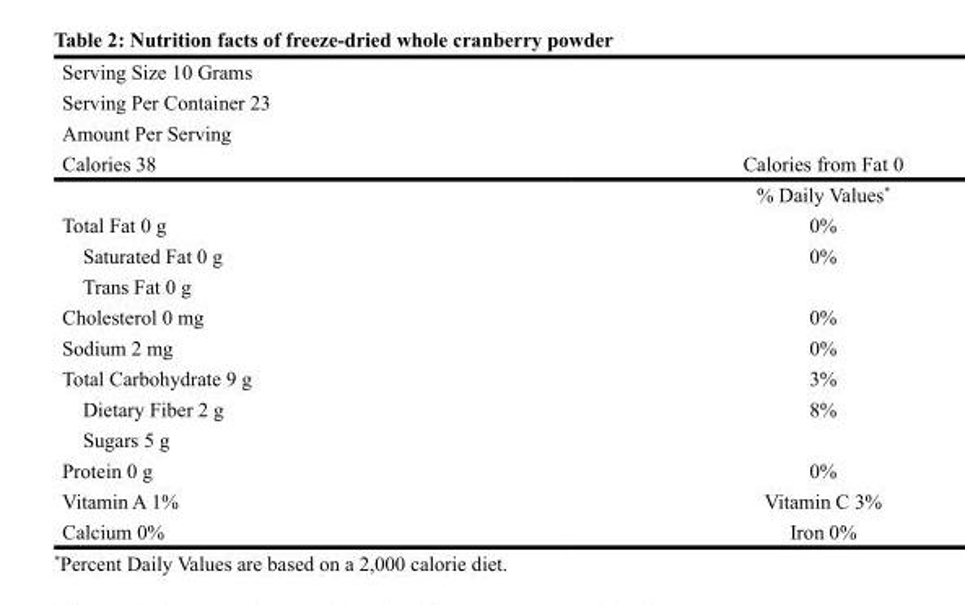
<table><thead><tr><td rowspan="4">Serving Size 10 Grams Serving Per Container 23 Amount Per Serving Calories 38</td><td rowspan="4">Calories from Fat 0</td></tr><tr></tr><tr></tr><tr></tr></thead><tbody><tr><td></td><td>% Daily Values*</td></tr><tr><td>Total Fat 0 g</td><td>0%</td></tr><tr><td>Saturated Fat 0 g</td><td>0%</td></tr><tr><td colspan="2">Trans Fat 0 g</td></tr><tr><td>Cholesterol 0 mg</td><td>0%</td></tr><tr><td>Sodium 2 mg</td><td>0%</td></tr><tr><td>Total Carbohydrate 9 g</td><td>3%</td></tr><tr><td>Dietary Fiber 2 g</td><td>8%</td></tr><tr><td colspan="2">Sugars 5 g</td></tr><tr><td>Protein 0 g</td><td>0%</td></tr><tr><td>Vitamin A 1%</td><td>Vitamin C 3%</td></tr><tr><td>Calcium 0%</td><td>Iron 0%</td></tr></tbody></table>